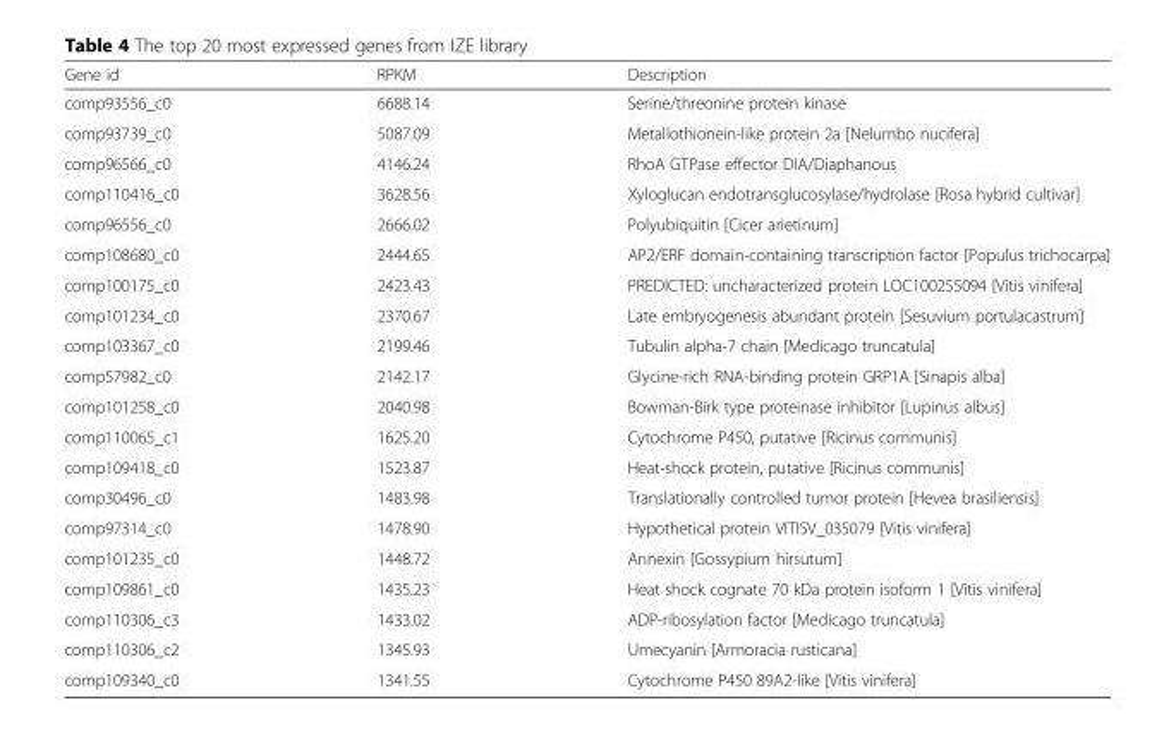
<table><thead><tr><td>Gene id</td><td>RPKM</td><td>Description</td></tr></thead><tbody><tr><td>comp93556_c0</td><td>6688.14</td><td>Serine/threonine protein kinase</td></tr><tr><td>comp93739_c0</td><td>5087.09</td><td>Metallothionein-like protein 2a [Nelumbo nucifera]</td></tr><tr><td>comp96566_c0</td><td>4146.24</td><td>RhoA GTPase effector DIA/Diaphanous</td></tr><tr><td>comp110416_c0</td><td>3628.56</td><td>Xyloglucan endotransglucosylase/hydrolase [Rosa hybrid cultivar]</td></tr><tr><td>comp96556_c0</td><td>2666.02</td><td>Polyubiquitin [Cicer arietinum]</td></tr><tr><td>comp108680_c0</td><td>2444.65</td><td>AP2/ERF domain-containing transcription factor [Populus trichocarpa]</td></tr><tr><td>comp100175_c0</td><td>2423.43</td><td>PREDICTED: uncharacterized protein LOC100255094 [Vitis vinifera]</td></tr><tr><td>comp101234_c0</td><td>2370.67</td><td>Late embryogenesis abundant protein [Sesuvium portulacastrum]</td></tr><tr><td>comp103367_c0</td><td>2199.46</td><td>Tubulin alpha-7 chain [Medicago truncatula]</td></tr><tr><td>comp57982_c0</td><td>2142.17</td><td>Glycine-rich RNA-binding protein GRP1A [Sinapis alba]</td></tr><tr><td>comp101258_c0</td><td>2040.98</td><td>Bowman-Birk type proteinase inhibitor [Lupinus albus]</td></tr><tr><td>comp110065_c1</td><td>1625.20</td><td>Cytochrome P450, putative [Ricinus communis]</td></tr><tr><td>comp109418_c0</td><td>1523.87</td><td>Heat-shock protein, putative [Ricinus communis]</td></tr><tr><td>comp30496_c0</td><td>1483.98</td><td>Translationally controlled tumor protein [Hevea brasiliensis]</td></tr><tr><td>comp97314_c0</td><td>1478.90</td><td>Hypothetical protein VITISV_035079 [Vitis vinifera]</td></tr><tr><td>comp101235_c0</td><td>1448.72</td><td>Annexin [Gossypium hirsutum]</td></tr><tr><td>comp109861_c0</td><td>1435.23</td><td>Heat shock cognate 70 kDa protein isoform 1 [Vitis vinifera]</td></tr><tr><td>comp110306_c3</td><td>1433.02</td><td>ADP-ribosylation factor [Medicago truncatula]</td></tr><tr><td>comp110306_c2</td><td>1345.93</td><td>Umecyanin [Armoracia rusticana]</td></tr><tr><td>comp109340_c0</td><td>1341.55</td><td>Cytochrome P450 89A2-like [Vitis vinifera]</td></tr></tbody></table>